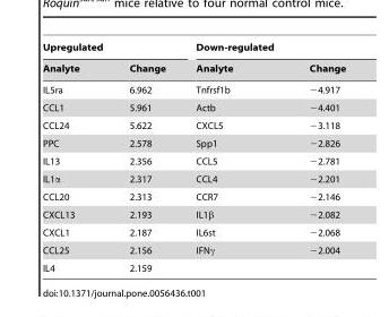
<table><thead><tr><td colspan="2">Upregulated</td><td colspan="2">Down-regulated</td></tr><tr><td>Analyte</td><td>Change</td><td>Analyte</td><td>Change</td></tr></thead><tbody><tr><td>IL5ra</td><td>6.962</td><td>Tnfrsf1b</td><td>−4.917</td></tr><tr><td>CCL1</td><td>5.961</td><td>Actb</td><td>−4.401</td></tr><tr><td>CCL24</td><td>5.622</td><td>CXCL5</td><td>−3.118</td></tr><tr><td>PPC</td><td>2.578</td><td>Spp1</td><td>−2.826</td></tr><tr><td>IL13</td><td>2.356</td><td>CCL5</td><td>−2.781</td></tr><tr><td>IL1α</td><td>2.317</td><td>CCL4</td><td>−2.201</td></tr><tr><td>CCL20</td><td>2.313</td><td>CCR7</td><td>−2.146</td></tr><tr><td>CXCL13</td><td>2.193</td><td>IL1β</td><td>−2.082</td></tr><tr><td>CXCL1</td><td>2.187</td><td>IL6st</td><td>−2.068</td></tr><tr><td>CCL25</td><td>2.156</td><td>IFNγ</td><td>−2.004</td></tr><tr><td>IL4</td><td>2.159</td><td></td><td></td></tr></tbody></table>